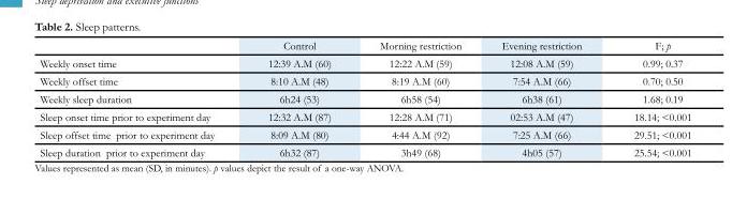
<table><thead><tr><td></td><td>Control</td><td>Morning restriction</td><td>Evening restriction</td><td>F; p</td></tr></thead><tbody><tr><td>Weekly onset time</td><td>12:39 A.M (60)</td><td>12:22 A.M (59)</td><td>12:08 A.M (59)</td><td>0.99; 0.37</td></tr><tr><td>Weekly offset time</td><td>8:10 A.M (48)</td><td>8:19 A.M (60)</td><td>7:54 A.M (66)</td><td>0.70; 0.50</td></tr><tr><td>Weekly sleep duration</td><td>6h24 (53)</td><td>6h58 (54)</td><td>6h38 (61)</td><td>1.68; 0.19</td></tr><tr><td>Sleep onset time prior to experiment day</td><td>12:32 A.M (87)</td><td>12:28 A.M (71)</td><td>02:53 A.M (47)</td><td>18.14; &lt;0.001</td></tr><tr><td>Sleep offset time prior to experiment day</td><td>8:09 A.M (80)</td><td>4:44 A.M (92)</td><td>7:25 A.M (66)</td><td>29.51; &lt;0.001</td></tr><tr><td>Sleep duration prior to experiment day</td><td>6h32 (87)</td><td>3h49 (68)</td><td>4h05 (57)</td><td>25.54; &lt;0.001</td></tr></tbody></table>